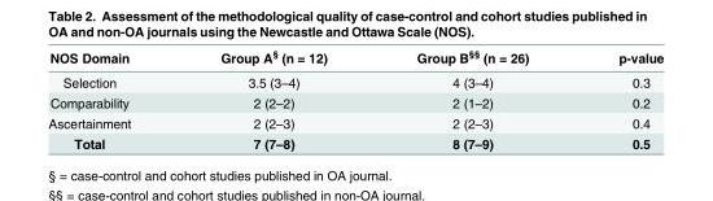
<table><thead><tr><td>NOS Domain</td><td>Group A<sup>§</sup> (n = 12)</td><td>Group B<sup>§§</sup> (n = 26)</td><td>p-value</td></tr></thead><tbody><tr><td>Selection</td><td>3.5 (3–4)</td><td>4 (3–4)</td><td>0.3</td></tr><tr><td>Comparability</td><td>2 (2–2)</td><td>2 (1–2)</td><td>0.2</td></tr><tr><td>Ascertainment</td><td>2 (2–3)</td><td>2 (2–3)</td><td>0.4</td></tr><tr><td>Total</td><td>7 (7–8)</td><td>8 (7–9)</td><td>0.5</td></tr></tbody></table>